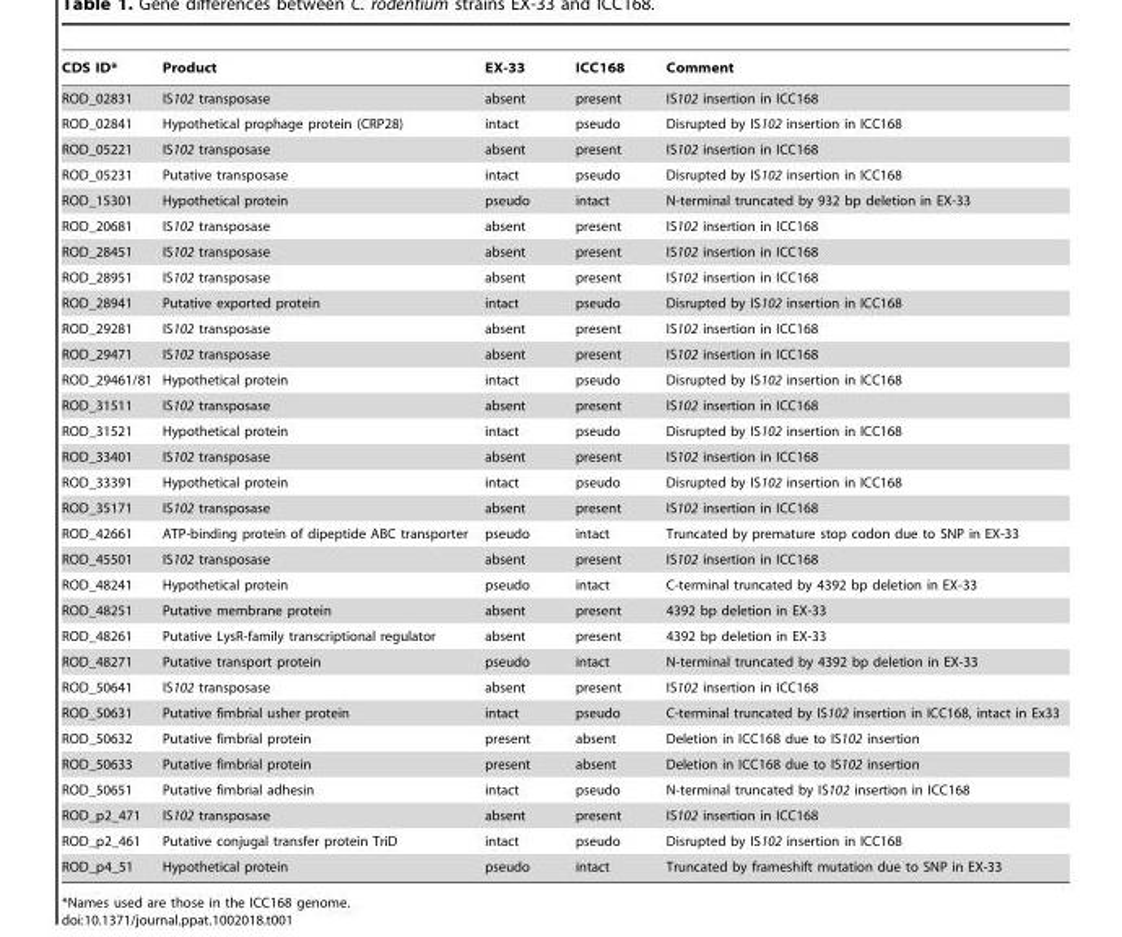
<table><thead><tr><td>CDS ID*</td><td>Product</td><td>EX-33</td><td>ICC168</td><td>Comment</td></tr></thead><tbody><tr><td>ROD_02831</td><td>IS102 transposase</td><td>absent</td><td>present</td><td>IS102 insertion in ICC168</td></tr><tr><td>ROD_02841</td><td>Hypothetical prophage protein (CRP28)</td><td>intact</td><td>pseudo</td><td>Disrupted by IS102 insertion in ICC168</td></tr><tr><td>ROD_05221</td><td>IS102 transposase</td><td>absent</td><td>present</td><td>IS102 insertion in ICC168</td></tr><tr><td>ROD_05231</td><td>Putative transposase</td><td>intact</td><td>pseudo</td><td>Disrupted by IS102 insertion in ICC168</td></tr><tr><td>ROD_15301</td><td>Hypothetical protein</td><td>pseudo</td><td>intact</td><td>N-terminal truncated by 932 bp deletion in EX-33</td></tr><tr><td>ROD_20681</td><td>IS102 transposase</td><td>absent</td><td>present</td><td>IS102 insertion in ICC168</td></tr><tr><td>ROD_28451</td><td>IS102 transposase</td><td>absent</td><td>present</td><td>IS102 insertion in ICC168</td></tr><tr><td>ROD_28951</td><td>IS102 transposase</td><td>absent</td><td>present</td><td>IS102 insertion in ICC168</td></tr><tr><td>ROD_28941</td><td>Putative exported protein</td><td>intact</td><td>pseudo</td><td>Disrupted by IS102 insertion in ICC168</td></tr><tr><td>ROD_29281</td><td>IS102 transposase</td><td>absent</td><td>present</td><td>IS102 insertion in ICC168</td></tr><tr><td>ROD_29471</td><td>IS102 transposase</td><td>absent</td><td>present</td><td>IS102 insertion in ICC168</td></tr><tr><td>ROD_29461/81</td><td>Hypothetical protein</td><td>intact</td><td>pseudo</td><td>Disrupted by IS102 insertion in ICC168</td></tr><tr><td>ROD_31511</td><td>IS102 transposase</td><td>absent</td><td>present</td><td>IS102 insertion in ICC168</td></tr><tr><td>ROD_31521</td><td>Hypothetical protein</td><td>intact</td><td>pseudo</td><td>Disrupted by IS102 insertion in ICC168</td></tr><tr><td>ROD_33401</td><td>IS102 transposase</td><td>absent</td><td>present</td><td>IS102 insertion in ICC168</td></tr><tr><td>ROD_33391</td><td>Hypothetical protein</td><td>intact</td><td>pseudo</td><td>Disrupted by IS102 insertion in ICC168</td></tr><tr><td>ROD_35171</td><td>IS102 transposase</td><td>absent</td><td>present</td><td>IS102 insertion in ICC168</td></tr><tr><td>ROD_42661</td><td>ATP-binding protein of dipeptide ABC transporter</td><td>pseudo</td><td>intact</td><td>Truncated by premature stop codon due to SNP in EX-33</td></tr><tr><td>ROD_45501</td><td>IS102 transposase</td><td>absent</td><td>present</td><td>IS102 insertion in ICC168</td></tr><tr><td>ROD_48241</td><td>Hypothetical protein</td><td>pseudo</td><td>intact</td><td>C-terminal truncated by 4392 bp deletion in EX-33</td></tr><tr><td>ROD_48251</td><td>Putative membrane protein</td><td>absent</td><td>present</td><td>4392 bp deletion in EX-33</td></tr><tr><td>ROD_48261</td><td>Putative LysR-family transcriptional regulator</td><td>absent</td><td>present</td><td>4392 bp deletion in EX-33</td></tr><tr><td>ROD_48271</td><td>Putative transport protein</td><td>pseudo</td><td>intact</td><td>N-terminal truncated by 4392 bp deletion in EX-33</td></tr><tr><td>ROD_50641</td><td>IS102 transposase</td><td>absent</td><td>present</td><td>IS102 insertion in ICC168</td></tr><tr><td>ROD_50631</td><td>Putative fimbrial usher protein</td><td>intact</td><td>pseudo</td><td>C-terminal truncated by IS102 insertion in ICC168, intact in Ex33</td></tr><tr><td>ROD_50632</td><td>Putative fimbrial protein</td><td>present</td><td>absent</td><td>Deletion in ICC168 due to IS102 insertion</td></tr><tr><td>ROD_50633</td><td>Putative fimbrial protein</td><td>present</td><td>absent</td><td>Deletion in ICC168 due to IS102 insertion</td></tr><tr><td>ROD_50651</td><td>Putative fimbrial adhesin</td><td>intact</td><td>pseudo</td><td>N-terminal truncated by IS102 insertion in ICC168</td></tr><tr><td>ROD_p2_471</td><td>IS102 transposase</td><td>absent</td><td>present</td><td>IS102 insertion in ICC168</td></tr><tr><td>ROD_p2_461</td><td>Putative conjugal transfer protein TriD</td><td>intact</td><td>pseudo</td><td>Disrupted by IS102 insertion in ICC168</td></tr><tr><td>ROD_p4_51</td><td>Hypothetical protein</td><td>pseudo</td><td>intact</td><td>Truncated by frameshift mutation due to SNP in EX-33</td></tr></tbody></table>